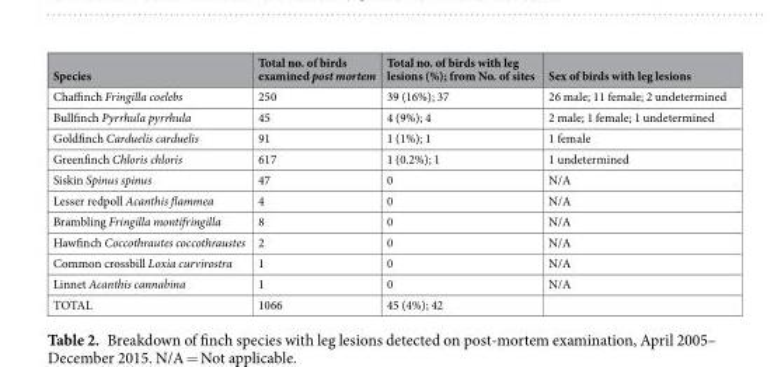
<table><thead><tr><td>Species</td><td>Total no. of birds examined post mortem</td><td>Total no. of birds with leg lesions (%); from No. of sites</td><td>Sex of birds with leg lesions</td></tr></thead><tbody><tr><td>Chaffinch Fringilla coelebs</td><td>250</td><td>39 (16%); 37</td><td>26 male; 11 female; 2 undetermined</td></tr><tr><td>Bullfinch Pyrrhula pyrrhula</td><td>45</td><td>4 (9%); 4</td><td>2 male; 1 female; 1 undetermined</td></tr><tr><td>Goldfinch Carduelis carduelis</td><td>91</td><td>1 (1%); 1</td><td>1 female</td></tr><tr><td>Greenfinch Chloris chloris</td><td>617</td><td>1 (0.2%); 1</td><td>1 undetermined</td></tr><tr><td>Siskin Spinus spinus</td><td>47</td><td>0</td><td>N/A</td></tr><tr><td>Lesser redpoll Acanthis flammea</td><td>4</td><td>0</td><td>N/A</td></tr><tr><td>Brambling Fringilla montifringilla</td><td>8</td><td>0</td><td>N/A</td></tr><tr><td>Hawfinch Coccothrautes coccothraustes</td><td>2</td><td>0</td><td>N/A</td></tr><tr><td>Common crossbill Loxia curvirostra</td><td>1</td><td>0</td><td>N/A</td></tr><tr><td>Linnet Acanthis cannabina</td><td>1</td><td>0</td><td>N/A</td></tr><tr><td>TOTAL</td><td>1066</td><td>45 (4%); 42</td><td></td></tr></tbody></table>